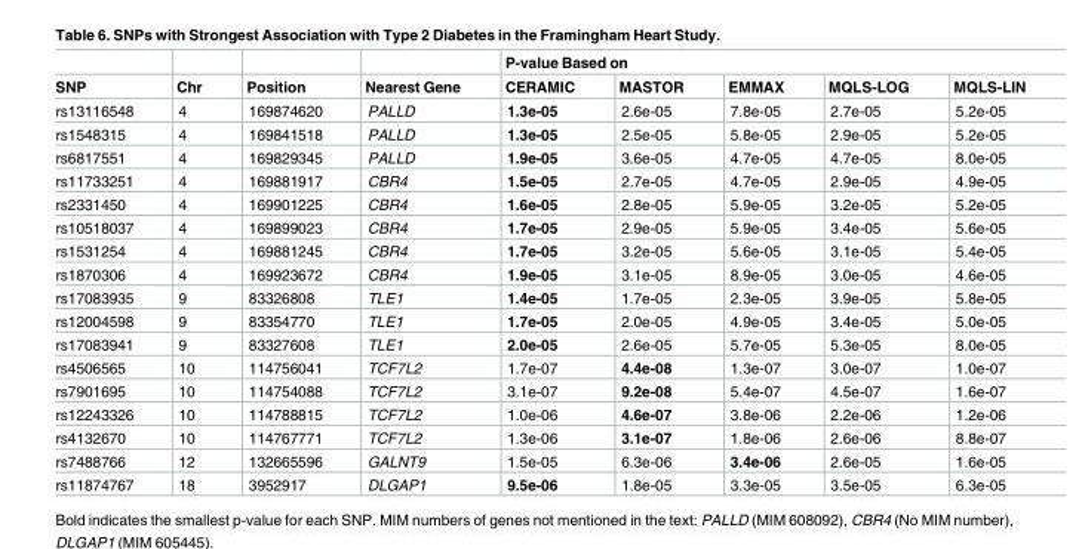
<table><thead><tr><td rowspan="2">SNP</td><td rowspan="2">Chr</td><td rowspan="2">Position</td><td rowspan="2">Nearest Gene</td><td colspan="5">P-value Based on</td></tr><tr><td>CERAMIC</td><td>MASTOR</td><td>EMMAX</td><td>MQLS-LOG</td><td>MQLS-LIN</td></tr></thead><tbody><tr><td>rs13116548</td><td>4</td><td>169874620</td><td>PALLD</td><td>1.3e-05</td><td>2.6e-05</td><td>7.8e-05</td><td>2.7e-05</td><td>5.2e-05</td></tr><tr><td>rs1548315</td><td>4</td><td>169841518</td><td>PALLD</td><td>1.3e-05</td><td>2.5e-05</td><td>5.8e-05</td><td>2.9e-05</td><td>5.2e-05</td></tr><tr><td>rs6817551</td><td>4</td><td>169829345</td><td>PALLD</td><td>1.9e-05</td><td>3.6e-05</td><td>4.7e-05</td><td>4.7e-05</td><td>8.0e-05</td></tr><tr><td>rs11733251</td><td>4</td><td>169881917</td><td>CBR4</td><td>1.5e-05</td><td>2.7e-05</td><td>4.7e-05</td><td>2.9e-05</td><td>4.9e-05</td></tr><tr><td>rs2331450</td><td>4</td><td>169901225</td><td>CBR4</td><td>1.6e-05</td><td>2.8e-05</td><td>5.9e-05</td><td>3.2e-05</td><td>5.2e-05</td></tr><tr><td>rs10518037</td><td>4</td><td>169899023</td><td>CBR4</td><td>1.7e-05</td><td>2.9e-05</td><td>5.9e-05</td><td>3.4e-05</td><td>5.6e-05</td></tr><tr><td>rs1531254</td><td>4</td><td>169881245</td><td>CBR4</td><td>1.7e-05</td><td>3.2e-05</td><td>5.6e-05</td><td>3.1e-05</td><td>5.4e-05</td></tr><tr><td>rs1870306</td><td>4</td><td>169923672</td><td>CBR4</td><td>1.9e-05</td><td>3.1e-05</td><td>8.9e-05</td><td>3.0e-05</td><td>4.6e-05</td></tr><tr><td>rs17083935</td><td>9</td><td>83326808</td><td>TLE1</td><td>1.4e-05</td><td>1.7e-05</td><td>2.3e-05</td><td>3.9e-05</td><td>5.8e-05</td></tr><tr><td>rs12004598</td><td>9</td><td>83354770</td><td>TLE1</td><td>1.7e-05</td><td>2.0e-05</td><td>4.9e-05</td><td>3.4e-05</td><td>5.0e-05</td></tr><tr><td>rs17083941</td><td>9</td><td>83327608</td><td>TLE1</td><td>2.0e-05</td><td>2.6e-05</td><td>5.7e-05</td><td>5.3e-05</td><td>8.0e-05</td></tr><tr><td>rs4506565</td><td>10</td><td>114756041</td><td>TCF7L2</td><td>1.7e-07</td><td>4.4e-08</td><td>1.3e-07</td><td>3.0e-07</td><td>1.0e-07</td></tr><tr><td>rs7901695</td><td>10</td><td>114754088</td><td>TCF7L2</td><td>3.1e-07</td><td>9.2e-08</td><td>5.4e-07</td><td>4.5e-07</td><td>1.6e-07</td></tr><tr><td>rs12243326</td><td>10</td><td>114788815</td><td>TCF7L2</td><td>1.0e-06</td><td>4.6e-07</td><td>3.8e-06</td><td>2.2e-06</td><td>1.2e-06</td></tr><tr><td>rs4132670</td><td>10</td><td>114767771</td><td>TCF7L2</td><td>1.3e-06</td><td>3.1e-07</td><td>1.8e-06</td><td>2.6e-06</td><td>8.8e-07</td></tr><tr><td>rs7488766</td><td>12</td><td>132665596</td><td>GALNT9</td><td>1.5e-05</td><td>6.3e-06</td><td>3.4e-06</td><td>2.6e-05</td><td>1.6e-05</td></tr><tr><td>rs11874767</td><td>18</td><td>3952917</td><td>DLGAP1</td><td>9.5e-06</td><td>1.8e-05</td><td>3.3e-05</td><td>3.5e-05</td><td>6.3e-05</td></tr></tbody></table>